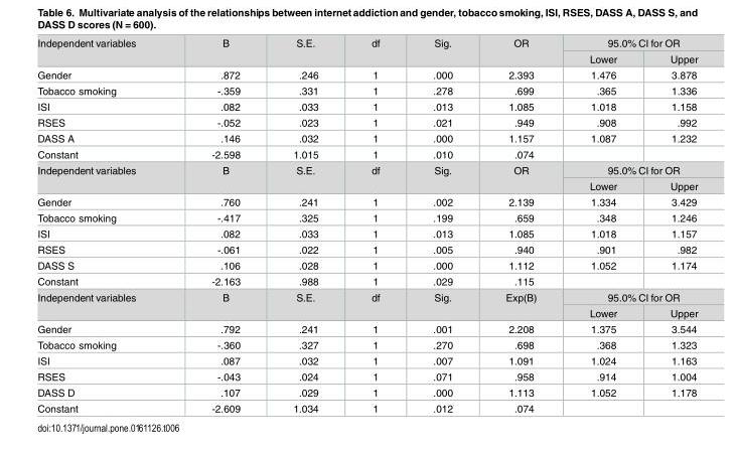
<table><tbody><tr><td rowspan="2">Independent variables</td><td rowspan="2">B</td><td rowspan="2">S.E.</td><td rowspan="2">df</td><td rowspan="2">Sig.</td><td rowspan="2">OR</td><td colspan="2">95.0% CI for OR</td></tr><tr><td>Lower</td><td>Upper</td></tr><tr><td>Gender</td><td>.872</td><td>.246</td><td>1</td><td>.000</td><td>2.393</td><td>1.476</td><td>3.878</td></tr><tr><td>Tobacco smoking</td><td>-.359</td><td>.331</td><td>1</td><td>.278</td><td>.699</td><td>.365</td><td>1.336</td></tr><tr><td>ISI</td><td>.082</td><td>.033</td><td>1</td><td>.013</td><td>1.085</td><td>1.018</td><td>1.158</td></tr><tr><td>RSES</td><td>-.052</td><td>.023</td><td>1</td><td>.021</td><td>.949</td><td>.908</td><td>.992</td></tr><tr><td>DASS A</td><td>.146</td><td>.032</td><td>1</td><td>.000</td><td>1.157</td><td>1.087</td><td>1.232</td></tr><tr><td>Constant</td><td>-2.598</td><td>1.015</td><td>1</td><td>.010</td><td>.074</td><td></td><td></td></tr><tr><td rowspan="2">Independent variables</td><td rowspan="2">B</td><td rowspan="2">S.E.</td><td rowspan="2">df</td><td rowspan="2">Sig.</td><td rowspan="2">OR</td><td colspan="2">95.0% CI for OR</td></tr><tr><td>Lower</td><td>Upper</td></tr><tr><td>Gender</td><td>.760</td><td>.241</td><td>1</td><td>.002</td><td>2.139</td><td>1.334</td><td>3.429</td></tr><tr><td>Tobacco smoking</td><td>-.417</td><td>.325</td><td>1</td><td>.199</td><td>.659</td><td>.348</td><td>1.246</td></tr><tr><td>ISI</td><td>.082</td><td>.033</td><td>1</td><td>.013</td><td>1.085</td><td>1.018</td><td>1.157</td></tr><tr><td>RSES</td><td>-.061</td><td>.022</td><td>1</td><td>.005</td><td>.940</td><td>.901</td><td>.982</td></tr><tr><td>DASS S</td><td>.106</td><td>.028</td><td>1</td><td>.000</td><td>1.112</td><td>1.052</td><td>1.174</td></tr><tr><td>Constant</td><td>-2.163</td><td>.988</td><td>1</td><td>.029</td><td>.115</td><td></td><td></td></tr><tr><td rowspan="2">Independent variables</td><td rowspan="2">B</td><td rowspan="2">S.E.</td><td rowspan="2">df</td><td rowspan="2">Sig.</td><td rowspan="2">Exp(B)</td><td colspan="2">95.0% CI for OR</td></tr><tr><td>Lower</td><td>Upper</td></tr><tr><td>Gender</td><td>.792</td><td>.241</td><td>1</td><td>.001</td><td>2.208</td><td>1.375</td><td>3.544</td></tr><tr><td>Tobacco smoking</td><td>-.360</td><td>.327</td><td>1</td><td>.270</td><td>.698</td><td>.368</td><td>1.323</td></tr><tr><td>ISI</td><td>.087</td><td>.032</td><td>1</td><td>.007</td><td>1.091</td><td>1.024</td><td>1.163</td></tr><tr><td>RSES</td><td>-.043</td><td>.024</td><td>1</td><td>.071</td><td>.958</td><td>.914</td><td>1.004</td></tr><tr><td>DASS D</td><td>.107</td><td>.029</td><td>1</td><td>.000</td><td>1.113</td><td>1.052</td><td>1.178</td></tr><tr><td>Constant</td><td>-2.609</td><td>1.034</td><td>1</td><td>.012</td><td>.074</td><td></td><td></td></tr></tbody></table>